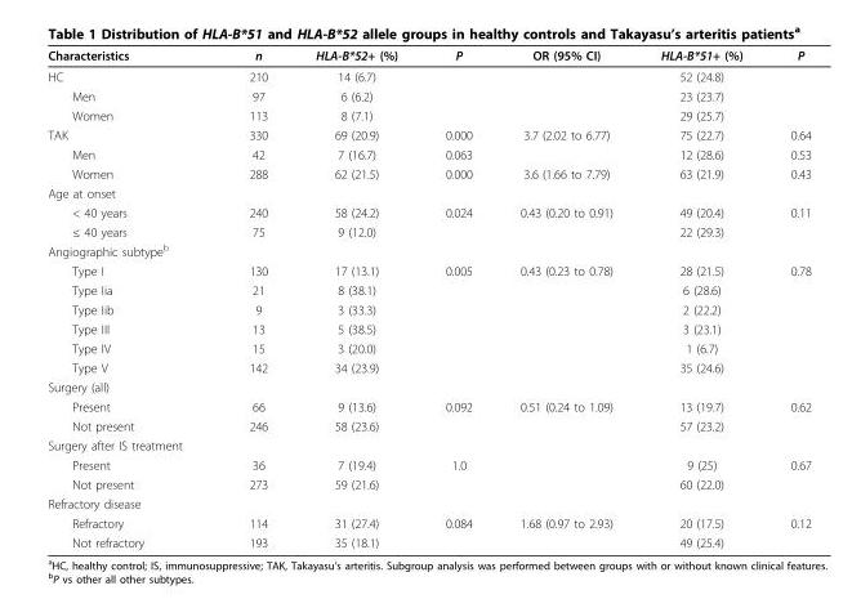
<table><thead><tr><td>Characteristics</td><td>n</td><td>HLA-B*52+ (%)</td><td>P</td><td>OR (95% CI)</td><td>HLA-B*51+ (%)</td><td>P</td></tr></thead><tbody><tr><td>HC</td><td>210</td><td>14 (6.7)</td><td></td><td></td><td>52 (24.8)</td><td></td></tr><tr><td>Men</td><td>97</td><td>6 (6.2)</td><td></td><td></td><td>23 (23.7)</td><td></td></tr><tr><td>Women</td><td>113</td><td>8 (7.1)</td><td></td><td></td><td>29 (25.7)</td><td></td></tr><tr><td>TAK</td><td>330</td><td>69 (20.9)</td><td>0.000</td><td>3.7 (2.02 to 6.77)</td><td>75 (22.7)</td><td>0.64</td></tr><tr><td>Men</td><td>42</td><td>7 (16.7)</td><td>0.063</td><td></td><td>12 (28.6)</td><td>0.53</td></tr><tr><td>Women</td><td>288</td><td>62 (21.5)</td><td>0.000</td><td>3.6 (1.66 to 7.79)</td><td>63 (21.9)</td><td>0.43</td></tr><tr><td colspan="7">Age at onset</td></tr><tr><td>&lt; 40 years</td><td>240</td><td>58 (24.2)</td><td>0.024</td><td>0.43 (0.20 to 0.91)</td><td>49 (20.4)</td><td>0.11</td></tr><tr><td>≤ 40 years</td><td>75</td><td>9 (12.0)</td><td></td><td></td><td>22 (29.3)</td><td></td></tr><tr><td colspan="7">Angiographic subtype<sup>b</sup></td></tr><tr><td>Type I</td><td>130</td><td>17 (13.1)</td><td>0.005</td><td>0.43 (0.23 to 0.78)</td><td>28 (21.5)</td><td>0.78</td></tr><tr><td>Type Iia</td><td>21</td><td>8 (38.1)</td><td></td><td></td><td>6 (28.6)</td><td></td></tr><tr><td>Type Iib</td><td>9</td><td>3 (33.3)</td><td></td><td></td><td>2 (22.2)</td><td></td></tr><tr><td>Type III</td><td>13</td><td>5 (38.5)</td><td></td><td></td><td>3 (23.1)</td><td></td></tr><tr><td>Type IV</td><td>15</td><td>3 (20.0)</td><td></td><td></td><td>1 (6.7)</td><td></td></tr><tr><td>Type V</td><td>142</td><td>34 (23.9)</td><td></td><td></td><td>35 (24.6)</td><td></td></tr><tr><td colspan="7">Surgery (all)</td></tr><tr><td>Present</td><td>66</td><td>9 (13.6)</td><td>0.092</td><td>0.51 (0.24 to 1.09)</td><td>13 (19.7)</td><td>0.62</td></tr><tr><td>Not present</td><td>246</td><td>58 (23.6)</td><td></td><td></td><td>57 (23.2)</td><td></td></tr><tr><td colspan="7">Surgery after IS treatment</td></tr><tr><td>Present</td><td>36</td><td>7 (19.4)</td><td>1.0</td><td></td><td>9 (25)</td><td>0.67</td></tr><tr><td>Not present</td><td>273</td><td>59 (21.6)</td><td></td><td></td><td>60 (22.0)</td><td></td></tr><tr><td colspan="7">Refractory disease</td></tr><tr><td>Refractory</td><td>114</td><td>31 (27.4)</td><td>0.084</td><td>1.68 (0.97 to 2.93)</td><td>20 (17.5)</td><td>0.12</td></tr><tr><td>Not refractory</td><td>193</td><td>35 (18.1)</td><td></td><td></td><td>49 (25.4)</td><td></td></tr></tbody></table>